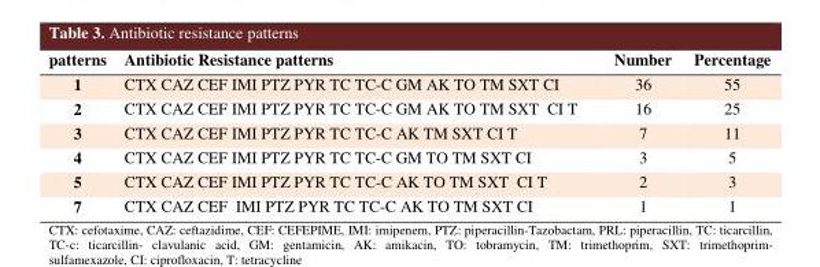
<table><thead><tr><td>patterns</td><td>Antibiotic Resistance patterns</td><td>Number</td><td>Percentage</td></tr></thead><tbody><tr><td>1</td><td>CTX CAZ CEF IMI PTZ PYR TC TC-C GM AK TO TM SXT CI</td><td>36</td><td>55</td></tr><tr><td>2</td><td>CTX CAZ CEF IMI PTZ PYR TC TC-C GM AK TO TM SXT CI T</td><td>16</td><td>25</td></tr><tr><td>3</td><td>CTX CAZ CEF IMI PTZ PYR TC TC-C AK TM SXT CI T</td><td>7</td><td>11</td></tr><tr><td>4</td><td>CTX CAZ CEF IMI PTZ PYR TC TC-C GM TO TM SXT CI</td><td>3</td><td>5</td></tr><tr><td>5</td><td>CTX CAZ CEF IMI PTZ PYR TC TC-C AK TO TM SXT CI T</td><td>2</td><td>3</td></tr><tr><td>7</td><td>CTX CAZ CEF IMI PTZ PYR TC TC-C AK TO TM SXT CI</td><td>1</td><td>1</td></tr></tbody></table>